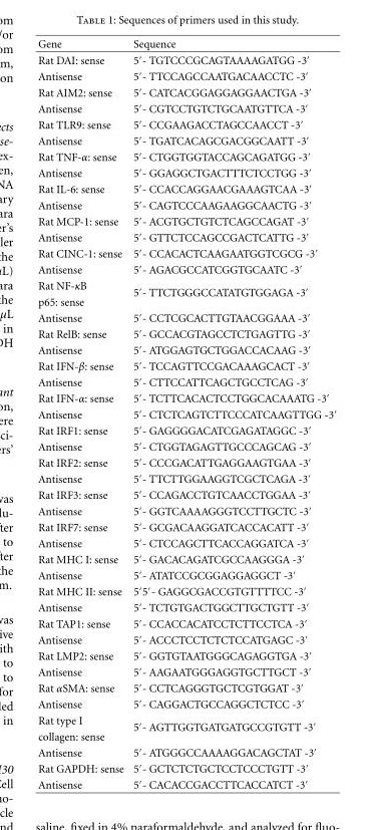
<table><thead><tr><td>Gene</td><td>Sequence</td></tr></thead><tbody><tr><td>Rat DAI: sense</td><td>5′- TGTCCCGCAGTAAAAGATGG -3′</td></tr><tr><td>Antisense</td><td>5′- TTCCAGCCAATGACAACCTC -3′</td></tr><tr><td>Rat AIM2: sense</td><td>5′- CATCACGGAGGAGGAACTGA -3′</td></tr><tr><td>Antisense</td><td>5′- CGTCCTGTCTGCAATGTTCA -3′</td></tr><tr><td>Rat TLR9: sense</td><td>5′- CCGAAGACCTAGCCAACCT -3′</td></tr><tr><td>Antisense</td><td>5′- TGATCACAGCGACGGCAATT -3′</td></tr><tr><td>Rat TNF-α: sense</td><td>5′- CTGGTGGTACCAGCAGATGG -3′</td></tr><tr><td>Antisense</td><td>5′- GGAGGCTGACTTTCTCCTGG -3′</td></tr><tr><td>Rat IL-6: sense</td><td>5′- CCACCAGGAACGAAAGTCAA -3′</td></tr><tr><td>Antisense</td><td>5′- CAGTCCCAAGAAGGCAACTG -3′</td></tr><tr><td>Rat MCP-1: sense</td><td>5′- ACGTGCTGTCTCAGCCAGAT -3′</td></tr><tr><td>Antisense</td><td>5′- GTTCTCCAGCCGACTCATTG -3′</td></tr><tr><td>Rat CINC-1: sense</td><td>5′- CCACACTCAAGAATGGTCGCG -3′</td></tr><tr><td>Antisense</td><td>5′- AGACGCCATCGGTGCAATC -3′</td></tr><tr><td>Rat NF-κB</td><td rowspan="2">5′- TTCTGGGCCATATGTGGAGA -3′</td></tr><tr><td>p65: sense</td></tr><tr><td>Antisense</td><td>5′- CCTCGCACTTGTAACGGAAA -3′</td></tr><tr><td>Rat RelB: sense</td><td>5′- GCCACGTAGCCTCTGAGTTG -3′</td></tr><tr><td>Antisense</td><td>5′- ATGGAGTGCTGGACCACAAG -3′</td></tr><tr><td>Rat IFN-β: sense</td><td>5′- TCCAGTTCCGACAAAGCACT -3′</td></tr><tr><td>Antisense</td><td>5′- CTTCCATTCAGCTGCCTCAG -3′</td></tr><tr><td>Rat IFN-α: sense</td><td>5′- TCTTCACACTCCTGGCACAAATG -3′</td></tr><tr><td>Antisense</td><td>5′- CTCTCAGTCTTCCCATCAAGTTGG -3′</td></tr><tr><td>Rat IRF1: sense</td><td>5′- GAGGGGACATCGAGATAGGC -3′</td></tr><tr><td>Antisense</td><td>5′- CTGGTAGAGTTGCCCAGCAG -3′</td></tr><tr><td>Rat IRF2: sense</td><td>5′- CCCGACATTGAGGAAGTGAA -3′</td></tr><tr><td>Antisense</td><td>5′- TTCTTGGAAGGTCGCTCAGA -3′</td></tr><tr><td>Rat IRF3: sense</td><td>5′- CCAGACCTGTCAACCTGGAA -3′</td></tr><tr><td>Antisense</td><td>5′- GGTCAAAAGGGTCCTTGCTC -3′</td></tr><tr><td>Rat IRF7: sense</td><td>5′- GCGACAAGGATCACCACATT -3′</td></tr><tr><td>Antisense</td><td>5′- CTCCAGCTTCACCAGGATCA -3′</td></tr><tr><td>Rat MHC I: sense</td><td>5′- GACACAGATCGCCAAGGGA -3′</td></tr><tr><td>Antisense</td><td>5′- ATATCCGCGGAGGAGGCT -3′</td></tr><tr><td>Rat MHC II: sense</td><td>5′5′- GAGGCGACCGTGTTTTCC -3′</td></tr><tr><td>Antisense</td><td>5′- TCTGTGACTGGCTTGCTGTT -3′</td></tr><tr><td>Rat TAP1: sense</td><td>5′- CCACCACATCCTCTTCCTCA -3′</td></tr><tr><td>Antisense</td><td>5′- ACCCTCCTCTCTCCATGAGC -3′</td></tr><tr><td>Rat LMP2: sense</td><td>5′- GGTGTAATGGGCAGAGGTGA -3′</td></tr><tr><td>Antisense</td><td>5′- AAGAATGGGAGGTGCTTGCT -3′</td></tr><tr><td>Rat αSMA: sense</td><td>5′- CCTCAGGGTGCTCGTGGAT -3′</td></tr><tr><td>Antisense</td><td>5′- CAGGACTGCCAGGCTCTCC -3′</td></tr><tr><td>Rat type I</td><td rowspan="2">5′- AGTTGGTGATGATGCCGTGTT -3′</td></tr><tr><td>collagen: sense</td></tr><tr><td>Antisense</td><td>5′- ATGGGCCAAAAGGACAGCTAT -3′</td></tr><tr><td>Rat GAPDH: sense</td><td>5′- GCTCTCTGCTCCTCCCTGTT -3′</td></tr><tr><td>Antisense</td><td>5′- CACACCGACCTTCACCATCT -3′</td></tr></tbody></table>